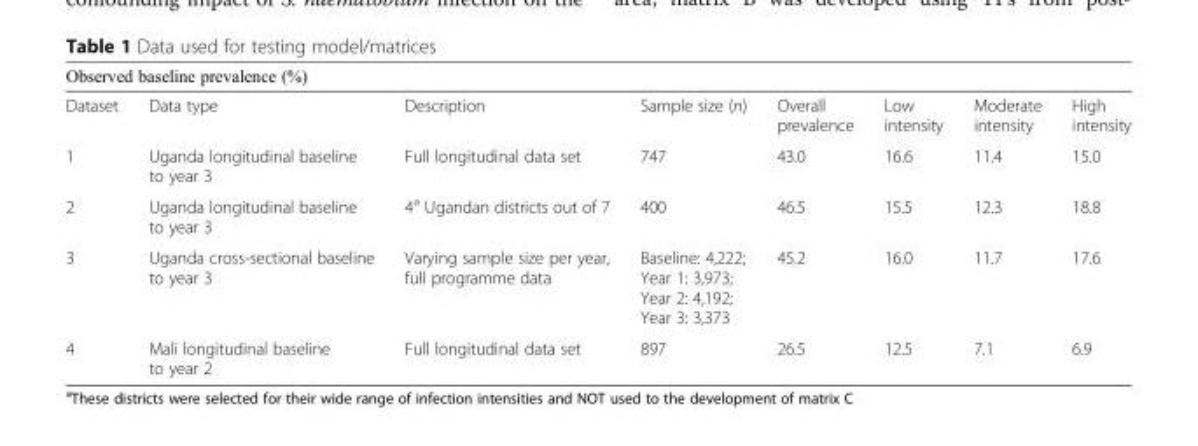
<table><thead><tr><td colspan="8">Observed baseline prevalence (%)</td></tr><tr><td>Dataset</td><td>Data type</td><td>Description</td><td>Sample size (n)</td><td>Overall prevalence</td><td>Low intensity</td><td>Moderate intensity</td><td>High intensity</td></tr></thead><tbody><tr><td>1</td><td>Uganda longitudinal baseline to year 3</td><td>Full longitudinal data set</td><td>747</td><td>43.0</td><td>16.6</td><td>11.4</td><td>15.0</td></tr><tr><td>2</td><td>Uganda longitudinal baseline to year 3</td><td>4<sup>a</sup> Ugandan districts out of 7</td><td>400</td><td>46.5</td><td>15.5</td><td>12.3</td><td>18.8</td></tr><tr><td>3</td><td>Uganda cross-sectional baseline to year 3</td><td>Varying sample size per year, full programme data</td><td>Baseline: 4,222; Year 1: 3,973; Year 2: 4,192; Year 3: 3,373</td><td>45.2</td><td>16.0</td><td>11.7</td><td>17.6</td></tr><tr><td>4</td><td>Mali longitudinal baseline to year 2</td><td>Full longitudinal data set</td><td>897</td><td>26.5</td><td>12.5</td><td>7.1</td><td>6.9</td></tr></tbody></table>